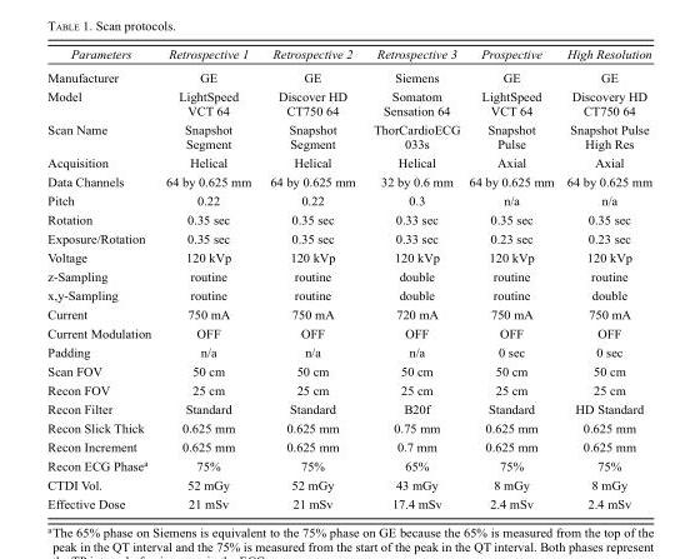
<table><thead><tr><td>Parameters</td><td>Retrospective 1</td><td>Retrospective 2</td><td>Retrospective 3</td><td>Prospective</td><td>High Resolution</td></tr></thead><tbody><tr><td>Manufacturer</td><td>GE</td><td>GE</td><td>Siemens</td><td>GE</td><td>GE</td></tr><tr><td>Model</td><td>LightSpeed VCT 64</td><td>Discover HD CT750 64</td><td>Somatom Sensation 64</td><td>LightSpeed VCT 64</td><td>Discovery HD CT750 64</td></tr><tr><td>Scan Name</td><td>Snapshot Segment</td><td>Snapshot Segment</td><td>ThorCardioECG 033s</td><td>Snapshot Pulse</td><td>Snapshot Pulse High Res</td></tr><tr><td>Acquisition</td><td>Helical</td><td>Helical</td><td>Helical</td><td>Axial</td><td>Axial</td></tr><tr><td>Data Channels</td><td>64 by 0.625 mm</td><td>64 by 0.625 mm</td><td>32 by 0.6 mm</td><td>64 by 0.625 mm</td><td>64 by 0.625 mm</td></tr><tr><td>Pitch</td><td>0.22</td><td>0.22</td><td>0.3</td><td>n/a</td><td>n/a</td></tr><tr><td>Rotation</td><td>0.35 sec</td><td>0.35 sec</td><td>0.33 sec</td><td>0.35 sec</td><td>0.35 sec</td></tr><tr><td>Exposure/Rotation</td><td>0.35 sec</td><td>0.35 sec</td><td>0.33 sec</td><td>0.23 sec</td><td>0.23 sec</td></tr><tr><td>Voltage</td><td>120 kVp</td><td>120 kVp</td><td>120 kVp</td><td>120 kVp</td><td>120 kVp</td></tr><tr><td>z-Sampling</td><td>routine</td><td>routine</td><td>double</td><td>routine</td><td>routine</td></tr><tr><td>x,y-Sampling</td><td>routine</td><td>routine</td><td>double</td><td>routine</td><td>double</td></tr><tr><td>Current</td><td>750 mA</td><td>750 mA</td><td>720 mA</td><td>750 mA</td><td>750 mA</td></tr><tr><td>Current Modulation</td><td>OFF</td><td>OFF</td><td>OFF</td><td>OFF</td><td>OFF</td></tr><tr><td>Padding</td><td>n/a</td><td>n/a</td><td>n/a</td><td>0 sec</td><td>0 sec</td></tr><tr><td>Scan FOV</td><td>50 cm</td><td>50 cm</td><td>50 cm</td><td>50 cm</td><td>50 cm</td></tr><tr><td>Recon FOV</td><td>25 cm</td><td>25 cm</td><td>25 cm</td><td>25 cm</td><td>25 cm</td></tr><tr><td>Recon Filter</td><td>Standard</td><td>Standard</td><td>B20f</td><td>Standard</td><td>HD Standard</td></tr><tr><td>Recon Slick Thick</td><td>0.625 mm</td><td>0.625 mm</td><td>0.75 mm</td><td>0.625 mm</td><td>0.625 mm</td></tr><tr><td>Recon Increment</td><td>0.625 mm</td><td>0.625 mm</td><td>0.7 mm</td><td>0.625 mm</td><td>0.625 mm</td></tr><tr><td>Recon ECG Phase<sup>a</sup></td><td>75%</td><td>75%</td><td>65%</td><td>75%</td><td>75%</td></tr><tr><td>CTDI Vol.</td><td>52 mGy</td><td>52 mGy</td><td>43 mGy</td><td>8 mGy</td><td>8 mGy</td></tr><tr><td>Effective Dose</td><td>21 mSv</td><td>21 mSv</td><td>17.4 mSv</td><td>2.4 mSv</td><td>2.4 mSv</td></tr></tbody></table>